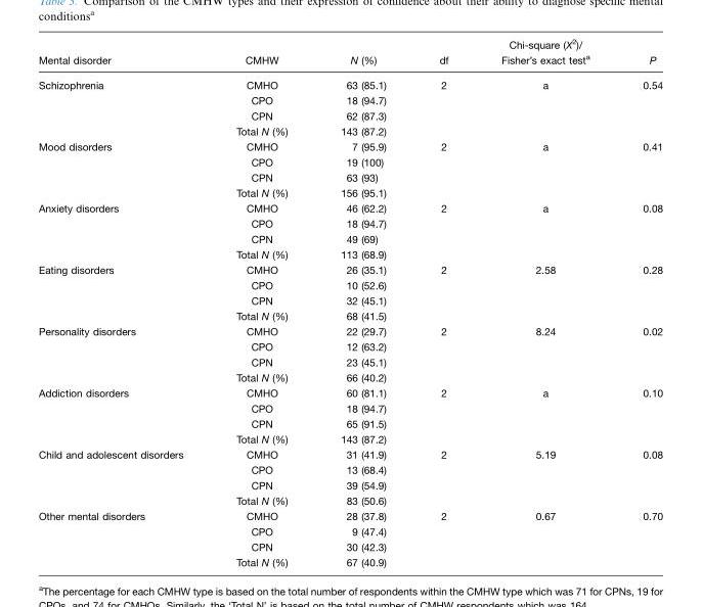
<table><thead><tr><td>Mental disorder</td><td>CMHW</td><td>N (%)</td><td>df</td><td>Chi-square (X<sup>2</sup>)/ Fisher’s exact test<sup>a</sup></td><td>P</td></tr></thead><tbody><tr><td rowspan="4">Schizophrenia</td><td>CMHO</td><td>63 (85.1)</td><td>2</td><td>a</td><td>0.54</td></tr><tr><td>CPO</td><td>18 (94.7)</td><td></td><td></td><td></td></tr><tr><td>CPN</td><td>62 (87.3)</td><td></td><td></td><td></td></tr><tr><td>Total N (%)</td><td>143 (87.2)</td><td></td><td></td><td></td></tr><tr><td rowspan="4">Mood disorders</td><td>CMHO</td><td>7 (95.9)</td><td>2</td><td>a</td><td>0.41</td></tr><tr><td>CPO</td><td>19 (100)</td><td></td><td></td><td></td></tr><tr><td>CPN</td><td>63 (93)</td><td></td><td></td><td></td></tr><tr><td>Total N (%)</td><td>156 (95.1)</td><td></td><td></td><td></td></tr><tr><td rowspan="4">Anxiety disorders</td><td>CMHO</td><td>46 (62.2)</td><td>2</td><td>a</td><td>0.08</td></tr><tr><td>CPO</td><td>18 (94.7)</td><td></td><td></td><td></td></tr><tr><td>CPN</td><td>49 (69)</td><td></td><td></td><td></td></tr><tr><td>Total N (%)</td><td>113 (68.9)</td><td></td><td></td><td></td></tr><tr><td rowspan="4">Eating disorders</td><td>CMHO</td><td>26 (35.1)</td><td>2</td><td>2.58</td><td>0.28</td></tr><tr><td>CPO</td><td>10 (52.6)</td><td></td><td></td><td></td></tr><tr><td>CPN</td><td>32 (45.1)</td><td></td><td></td><td></td></tr><tr><td>Total N (%)</td><td>68 (41.5)</td><td></td><td></td><td></td></tr><tr><td rowspan="4">Personality disorders</td><td>CMHO</td><td>22 (29.7)</td><td>2</td><td>8.24</td><td>0.02</td></tr><tr><td>CPO</td><td>12 (63.2)</td><td></td><td></td><td></td></tr><tr><td>CPN</td><td>23 (45.1)</td><td></td><td></td><td></td></tr><tr><td>Total N (%)</td><td>66 (40.2)</td><td></td><td></td><td></td></tr><tr><td rowspan="4">Addiction disorders</td><td>CMHO</td><td>60 (81.1)</td><td>2</td><td>a</td><td>0.10</td></tr><tr><td>CPO</td><td>18 (94.7)</td><td></td><td></td><td></td></tr><tr><td>CPN</td><td>65 (91.5)</td><td></td><td></td><td></td></tr><tr><td>Total N (%)</td><td>143 (87.2)</td><td></td><td></td><td></td></tr><tr><td rowspan="4">Child and adolescent disorders</td><td>CMHO</td><td>31 (41.9)</td><td>2</td><td>5.19</td><td>0.08</td></tr><tr><td>CPO</td><td>13 (68.4)</td><td></td><td></td><td></td></tr><tr><td>CPN</td><td>39 (54.9)</td><td></td><td></td><td></td></tr><tr><td>Total N (%)</td><td>83 (50.6)</td><td></td><td></td><td></td></tr><tr><td rowspan="4">Other mental disorders</td><td>CMHO</td><td>28 (37.8)</td><td>2</td><td>0.67</td><td>0.70</td></tr><tr><td>CPO</td><td>9 (47.4)</td><td></td><td></td><td></td></tr><tr><td>CPN</td><td>30 (42.3)</td><td></td><td></td><td></td></tr><tr><td>Total N (%)</td><td>67 (40.9)</td><td></td><td></td><td></td></tr></tbody></table>